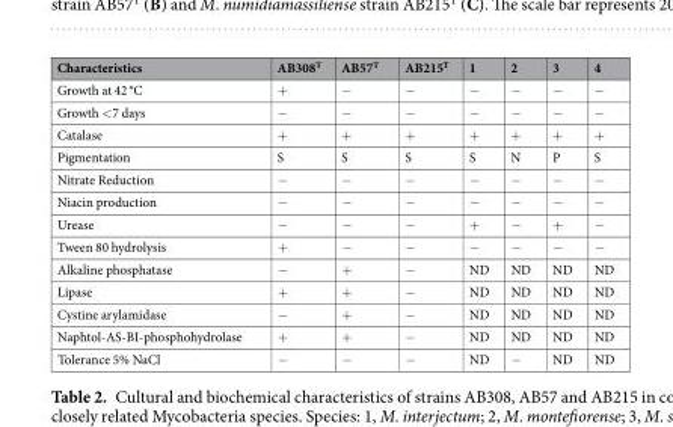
<table><thead><tr><td>Characteristics</td><td>AB308<sup>T</sup></td><td>AB57<sup>T</sup></td><td>AB215<sup>T</sup></td><td>1</td><td>2</td><td>3</td><td>4</td></tr></thead><tbody><tr><td>Growth at 42 °C</td><td>+</td><td>−</td><td>−</td><td>−</td><td>−</td><td>−</td><td>−</td></tr><tr><td>Growth &lt;7 days</td><td>−</td><td>−</td><td>−</td><td>−</td><td>−</td><td>−</td><td>−</td></tr><tr><td>Catalase</td><td>+</td><td>+</td><td>+</td><td>+</td><td>+</td><td>+</td><td>+</td></tr><tr><td>Pigmentation</td><td>S</td><td>S</td><td>S</td><td>S</td><td>N</td><td>P</td><td>S</td></tr><tr><td>Nitrate Reduction</td><td>−</td><td>−</td><td>−</td><td>−</td><td>−</td><td>−</td><td>−</td></tr><tr><td>Niacin production</td><td>−</td><td>−</td><td>−</td><td>−</td><td>−</td><td>−</td><td>−</td></tr><tr><td>Urease</td><td>−</td><td>−</td><td>−</td><td>+</td><td>−</td><td>+</td><td>−</td></tr><tr><td>Tween 80 hydrolysis</td><td>+</td><td>−</td><td>−</td><td>−</td><td>−</td><td>−</td><td>−</td></tr><tr><td>Alkaline phosphatase</td><td>−</td><td>+</td><td>−</td><td>ND</td><td>ND</td><td>ND</td><td>ND</td></tr><tr><td>Lipase</td><td>+</td><td>+</td><td>−</td><td>ND</td><td>ND</td><td>ND</td><td>ND</td></tr><tr><td>Cystine arylamidase</td><td>−</td><td>+</td><td>−</td><td>ND</td><td>ND</td><td>ND</td><td>ND</td></tr><tr><td>Naphtol-AS-BI-phosphohydrolase</td><td>+</td><td>+</td><td>−</td><td>ND</td><td>ND</td><td>ND</td><td>ND</td></tr><tr><td>Tolerance 5% NaCl</td><td>−</td><td>−</td><td>−</td><td>ND</td><td>−</td><td>ND</td><td>ND</td></tr></tbody></table>